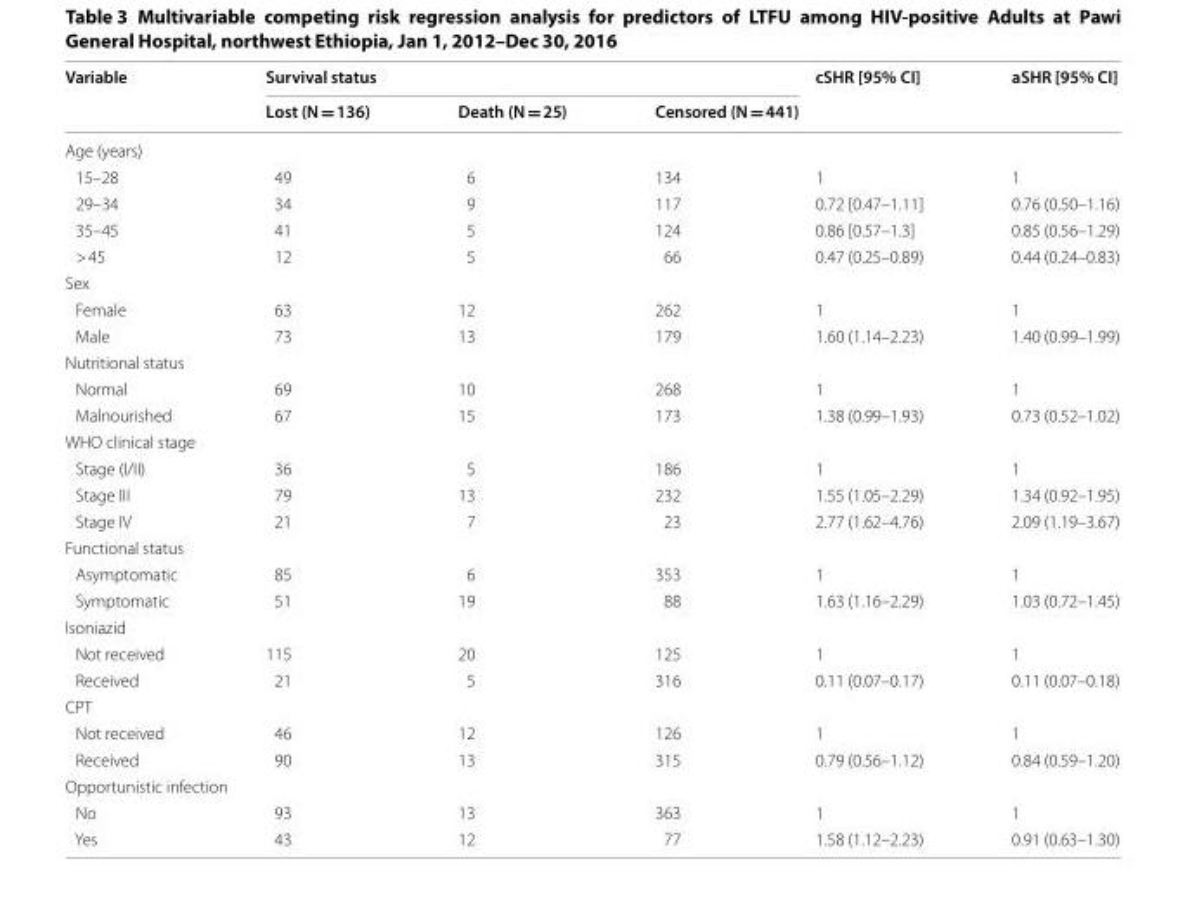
<table><thead><tr><td rowspan="2">Variable</td><td colspan="3">Survival status</td><td rowspan="2">cSHR [95% CI]</td><td rowspan="2">aSHR [95% CI]</td></tr><tr><td>Lost (N = 136)</td><td>Death (N = 25)</td><td>Censored (N = 441)</td></tr></thead><tbody><tr><td colspan="6">Age (years)</td></tr><tr><td>15–28</td><td>49</td><td>6</td><td>134</td><td>1</td><td>1</td></tr><tr><td>29–34</td><td>34</td><td>9</td><td>117</td><td>0.72 [0.47–1.11]</td><td>0.76 (0.50–1.16)</td></tr><tr><td>35–45</td><td>41</td><td>5</td><td>124</td><td>0.86 [0.57–1.3]</td><td>0.85 (0.56–1.29)</td></tr><tr><td>&gt; 45</td><td>12</td><td>5</td><td>66</td><td>0.47 (0.25–0.89)</td><td>0.44 (0.24–0.83)</td></tr><tr><td colspan="6">Sex</td></tr><tr><td>Female</td><td>63</td><td>12</td><td>262</td><td>1</td><td>1</td></tr><tr><td>Male</td><td>73</td><td>13</td><td>179</td><td>1.60 (1.14–2.23)</td><td>1.40 (0.99–1.99)</td></tr><tr><td colspan="6">Nutritional status</td></tr><tr><td>Normal</td><td>69</td><td>10</td><td>268</td><td>1</td><td>1</td></tr><tr><td>Malnourished</td><td>67</td><td>15</td><td>173</td><td>1.38 (0.99–1.93)</td><td>0.73 (0.52–1.02)</td></tr><tr><td colspan="6">WHO clinical stage</td></tr><tr><td>Stage (I/II)</td><td>36</td><td>5</td><td>186</td><td>1</td><td>1</td></tr><tr><td>Stage III</td><td>79</td><td>13</td><td>232</td><td>1.55 (1.05–2.29)</td><td>1.34 (0.92–1.95)</td></tr><tr><td>Stage IV</td><td>21</td><td>7</td><td>23</td><td>2.77 (1.62–4.76)</td><td>2.09 (1.19–3.67)</td></tr><tr><td colspan="6">Functional status</td></tr><tr><td>Asymptomatic</td><td>85</td><td>6</td><td>353</td><td>1</td><td>1</td></tr><tr><td>Symptomatic</td><td>51</td><td>19</td><td>88</td><td>1.63 (1.16–2.29)</td><td>1.03 (0.72–1.45)</td></tr><tr><td colspan="6">Isoniazid</td></tr><tr><td>Not received</td><td>115</td><td>20</td><td>125</td><td>1</td><td>1</td></tr><tr><td>Received</td><td>21</td><td>5</td><td>316</td><td>0.11 (0.07–0.17)</td><td>0.11 (0.07–0.18)</td></tr><tr><td colspan="6">CPT</td></tr><tr><td>Not received</td><td>46</td><td>12</td><td>126</td><td>1</td><td>1</td></tr><tr><td>Received</td><td>90</td><td>13</td><td>315</td><td>0.79 (0.56–1.12)</td><td>0.84 (0.59–1.20)</td></tr><tr><td colspan="6">Opportunistic infection</td></tr><tr><td>No</td><td>93</td><td>13</td><td>363</td><td>1</td><td>1</td></tr><tr><td>Yes</td><td>43</td><td>12</td><td>77</td><td>1.58 (1.12–2.23)</td><td>0.91 (0.63–1.30)</td></tr></tbody></table>